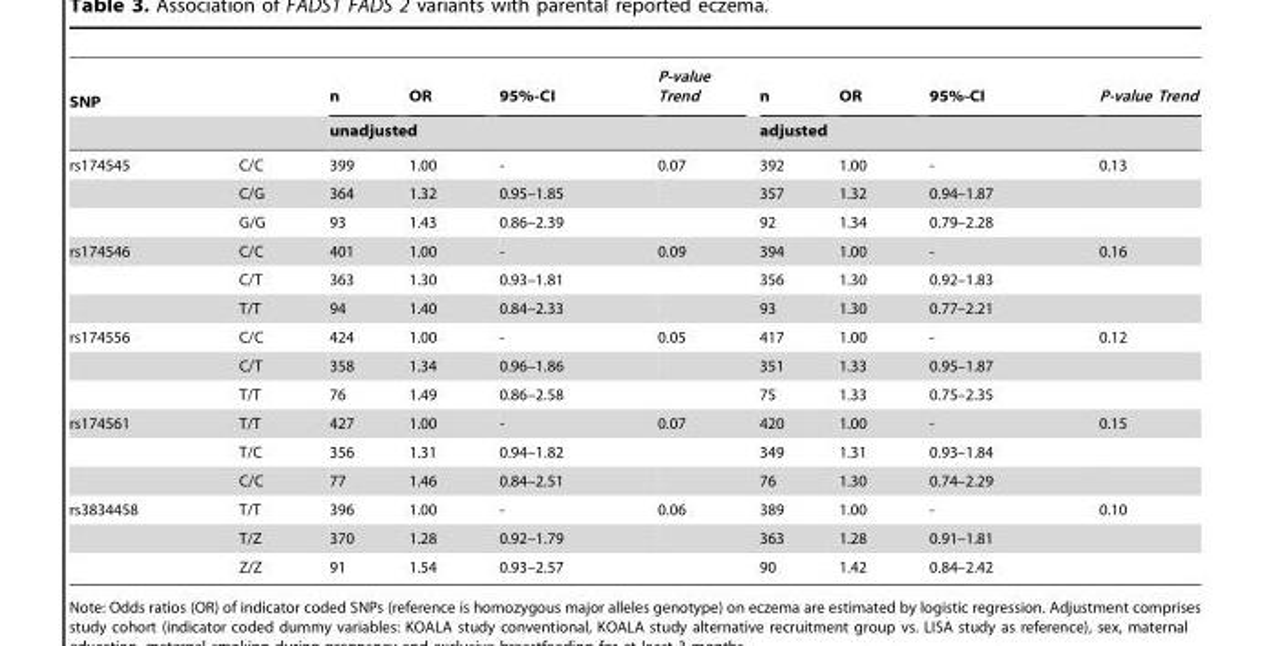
<table><thead><tr><td rowspan="2">SNP</td><td rowspan="2"></td><td>n</td><td>OR</td><td>95%-CI</td><td>P-value Trend</td><td>n</td><td>OR</td><td>95%-CI</td><td>P-value Trend</td></tr><tr><td colspan="4">unadjusted</td><td colspan="4">adjusted</td></tr></thead><tbody><tr><td rowspan="3">rs174545</td><td>C/C</td><td>399</td><td>1.00</td><td>-</td><td>0.07</td><td>392</td><td>1.00</td><td>-</td><td>0.13</td></tr><tr><td>C/G</td><td>364</td><td>1.32</td><td>0.95–1.85</td><td></td><td>357</td><td>1.32</td><td>0.94–1.87</td><td></td></tr><tr><td>G/G</td><td>93</td><td>1.43</td><td>0.86–2.39</td><td></td><td>92</td><td>1.34</td><td>0.79–2.28</td><td></td></tr><tr><td rowspan="3">rs174546</td><td>C/C</td><td>401</td><td>1.00</td><td>-</td><td>0.09</td><td>394</td><td>1.00</td><td>-</td><td>0.16</td></tr><tr><td>C/T</td><td>363</td><td>1.30</td><td>0.93–1.81</td><td></td><td>356</td><td>1.30</td><td>0.92–1.83</td><td></td></tr><tr><td>T/T</td><td>94</td><td>1.40</td><td>0.84–2.33</td><td></td><td>93</td><td>1.30</td><td>0.77–2.21</td><td></td></tr><tr><td rowspan="3">rs174556</td><td>C/C</td><td>424</td><td>1.00</td><td>-</td><td>0.05</td><td>417</td><td>1.00</td><td>-</td><td>0.12</td></tr><tr><td>C/T</td><td>358</td><td>1.34</td><td>0.96–1.86</td><td></td><td>351</td><td>1.33</td><td>0.95–1.87</td><td></td></tr><tr><td>T/T</td><td>76</td><td>1.49</td><td>0.86–2.58</td><td></td><td>75</td><td>1.33</td><td>0.75–2.35</td><td></td></tr><tr><td rowspan="3">rs174561</td><td>T/T</td><td>427</td><td>1.00</td><td>-</td><td>0.07</td><td>420</td><td>1.00</td><td>-</td><td>0.15</td></tr><tr><td>T/C</td><td>356</td><td>1.31</td><td>0.94–1.82</td><td></td><td>349</td><td>1.31</td><td>0.93–1.84</td><td></td></tr><tr><td>C/C</td><td>77</td><td>1.46</td><td>0.84–2.51</td><td></td><td>76</td><td>1.30</td><td>0.74–2.29</td><td></td></tr><tr><td rowspan="3">rs3834458</td><td>T/T</td><td>396</td><td>1.00</td><td>-</td><td>0.06</td><td>389</td><td>1.00</td><td>-</td><td>0.10</td></tr><tr><td>T/Z</td><td>370</td><td>1.28</td><td>0.92–1.79</td><td></td><td>363</td><td>1.28</td><td>0.91–1.81</td><td></td></tr><tr><td>Z/Z</td><td>91</td><td>1.54</td><td>0.93–2.57</td><td></td><td>90</td><td>1.42</td><td>0.84–2.42</td><td></td></tr></tbody></table>